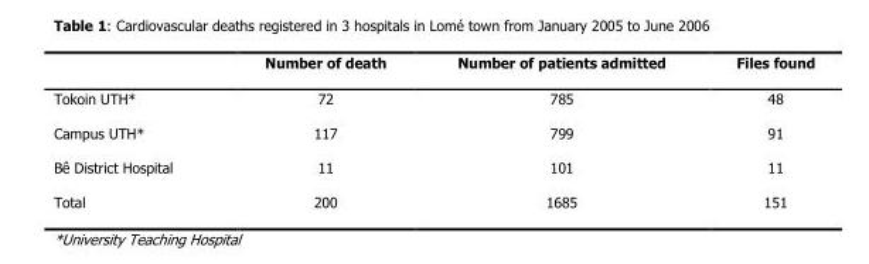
<table><thead><tr><td></td><td>Number of death</td><td>Number of patients admitted</td><td>Files found</td></tr></thead><tbody><tr><td>Tokoin UTH*</td><td>72</td><td>785</td><td>48</td></tr><tr><td>Campus UTH*</td><td>117</td><td>799</td><td>91</td></tr><tr><td>Bê District Hospital</td><td>11</td><td>101</td><td>11</td></tr><tr><td>Total</td><td>200</td><td>1685</td><td>151</td></tr></tbody></table>